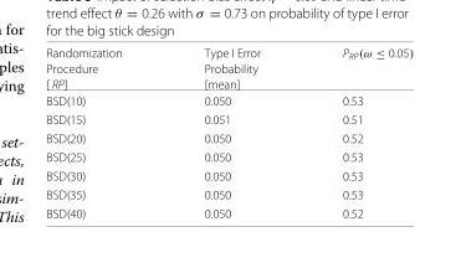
<table><thead><tr><td rowspan="3">Randomization Procedure [ RP]</td><td rowspan="3">Type I Error Probability [mean]</td><td rowspan="3">P<sub>RP</sub>(ω ≤ 0.05)</td></tr><tr></tr><tr></tr></thead><tbody><tr><td>BSD(10)</td><td>0.050</td><td>0.53</td></tr><tr><td>BSD(15)</td><td>0.051</td><td>0.51</td></tr><tr><td>BSD(20)</td><td>0.050</td><td>0.52</td></tr><tr><td>BSD(25)</td><td>0.050</td><td>0.53</td></tr><tr><td>BSD(30)</td><td>0.050</td><td>0.53</td></tr><tr><td>BSD(35)</td><td>0.050</td><td>0.53</td></tr><tr><td>BSD(40)</td><td>0.050</td><td>0.52</td></tr></tbody></table>